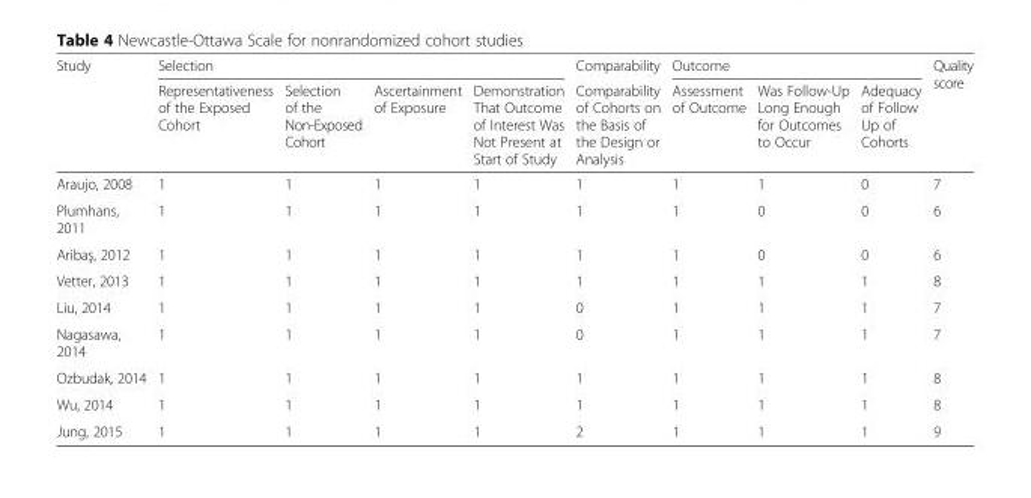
<table><thead><tr><td rowspan="2">Study</td><td colspan="4">Selection</td><td rowspan="2">Comparability Comparability of Cohorts on the Basis of the Design or Analysis</td><td colspan="3">Outcome</td><td rowspan="2">Quality score</td></tr><tr><td>Representativeness of the Exposed Cohort</td><td>Selection of the Non-Exposed Cohort</td><td>Ascertainment of Exposure</td><td>Demonstration That Outcome of Interest Was Not Present at Start of Study</td><td>Assessment of Outcome</td><td>Was Follow-Up Long Enough for Outcomes to Occur</td><td>Adequacy of Follow Up of Cohorts</td></tr></thead><tbody><tr><td>Araujo, 2008</td><td>1</td><td>1</td><td>1</td><td>1</td><td>1</td><td>1</td><td>1</td><td>0</td><td>7</td></tr><tr><td>Plumhans, 2011</td><td>1</td><td>1</td><td>1</td><td>1</td><td>1</td><td>1</td><td>0</td><td>0</td><td>6</td></tr><tr><td>Aribaş, 2012</td><td>1</td><td>1</td><td>1</td><td>1</td><td>1</td><td>1</td><td>0</td><td>0</td><td>6</td></tr><tr><td>Vetter, 2013</td><td>1</td><td>1</td><td>1</td><td>1</td><td>1</td><td>1</td><td>1</td><td>1</td><td>8</td></tr><tr><td>Liu, 2014</td><td>1</td><td>1</td><td>1</td><td>1</td><td>0</td><td>1</td><td>1</td><td>1</td><td>7</td></tr><tr><td>Nagasawa, 2014</td><td>1</td><td>1</td><td>1</td><td>1</td><td>0</td><td>1</td><td>1</td><td>1</td><td>7</td></tr><tr><td>Ozbudak, 2014</td><td>1</td><td>1</td><td>1</td><td>1</td><td>1</td><td>1</td><td>1</td><td>1</td><td>8</td></tr><tr><td>Wu, 2014</td><td>1</td><td>1</td><td>1</td><td>1</td><td>1</td><td>1</td><td>1</td><td>1</td><td>8</td></tr><tr><td>Jung, 2015</td><td>1</td><td>1</td><td>1</td><td>1</td><td>2</td><td>1</td><td>1</td><td>1</td><td>9</td></tr></tbody></table>